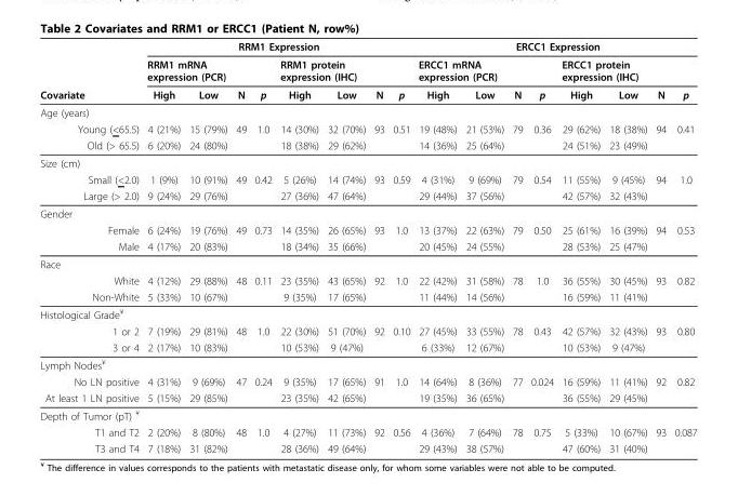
<table><thead><tr><td rowspan="3">Covariate</td><td colspan="8">RRM1 Expression</td><td colspan="8">ERCC1 Expression</td></tr><tr><td colspan="2">RRM1 mRNA expression (PCR)</td><td rowspan="2">N</td><td rowspan="2">p</td><td colspan="2">RRM1 protein expression (IHC)</td><td rowspan="2">N</td><td rowspan="2">p</td><td colspan="2">ERCC1 mRNA expression (PCR)</td><td rowspan="2">N</td><td rowspan="2">p</td><td colspan="2">ERCC1 protein expression (IHC)</td><td rowspan="2">N</td><td rowspan="2">p</td></tr><tr><td>High</td><td>Low</td><td>High</td><td>Low</td><td>High</td><td>Low</td><td>High</td><td>Low</td></tr></thead><tbody><tr><td colspan="17">Age (years)</td></tr><tr><td>Young (&lt;65.5)</td><td>4 (21%)</td><td>15 (79%)</td><td>49</td><td>1.0</td><td>14 (30%)</td><td>32 (70%)</td><td>93</td><td>0.51</td><td>19 (48%)</td><td>21 (53%)</td><td>79</td><td>0.36</td><td>29 (62%)</td><td>18 (38%)</td><td>94</td><td>0.41</td></tr><tr><td>Old (&gt; 65.5)</td><td>6 (20%)</td><td>24 (80%)</td><td></td><td></td><td>18 (38%)</td><td>29 (62%)</td><td></td><td></td><td>14 (36%)</td><td>25 (64%)</td><td></td><td></td><td>24 (51%)</td><td>23 (49%)</td><td></td><td></td></tr><tr><td colspan="17">Size (cm)</td></tr><tr><td>Small (&lt;2.0)</td><td>1 (9%)</td><td>10 (91%)</td><td>49</td><td>0.42</td><td>5 (26%)</td><td>14 (74%)</td><td>93</td><td>0.59</td><td>4 (31%)</td><td>9 (69%)</td><td>79</td><td>0.54</td><td>11 (55%)</td><td>9 (45%)</td><td>94</td><td>1.0</td></tr><tr><td>Large (&gt; 2.0)</td><td>9 (24%)</td><td>29 (76%)</td><td></td><td></td><td>27 (36%)</td><td>47 (64%)</td><td></td><td></td><td>29 (44%)</td><td>37 (56%)</td><td></td><td></td><td>42 (57%)</td><td>32 (43%)</td><td></td><td></td></tr><tr><td colspan="17">Gender</td></tr><tr><td>Female</td><td>6 (24%)</td><td>19 (76%)</td><td>49</td><td>0.73</td><td>14 (35%)</td><td>26 (65%)</td><td>93</td><td>1.0</td><td>13 (37%)</td><td>22 (63%)</td><td>79</td><td>0.50</td><td>25 (61%)</td><td>16 (39%)</td><td>94</td><td>0.53</td></tr><tr><td>Male</td><td>4 (17%)</td><td>20 (83%)</td><td></td><td></td><td>18 (34%)</td><td>35 (66%)</td><td></td><td></td><td>20 (45%)</td><td>24 (55%)</td><td></td><td></td><td>28 (53%)</td><td>25 (47%)</td><td></td><td></td></tr><tr><td colspan="17">Race</td></tr><tr><td>White</td><td>4 (12%)</td><td>29 (88%)</td><td>48</td><td>0.11</td><td>23 (35%)</td><td>43 (65%)</td><td>92</td><td>1.0</td><td>22 (42%)</td><td>31 (58%)</td><td>78</td><td>1.0</td><td>36 (55%)</td><td>30 (45%)</td><td>93</td><td>0.82</td></tr><tr><td>Non-White</td><td>5 (33%)</td><td>10 (67%)</td><td></td><td></td><td>9 (35%)</td><td>17 (65%)</td><td></td><td></td><td>11 (44%)</td><td>14 (56%)</td><td></td><td></td><td>16 (59%)</td><td>11 (41%)</td><td></td><td></td></tr><tr><td colspan="17">Histological Grade<sup>¥</sup></td></tr><tr><td>1 or 2</td><td>7 (19%)</td><td>29 (81%)</td><td>48</td><td>1.0</td><td>22 (30%)</td><td>51 (70%)</td><td>92</td><td>0.10</td><td>27 (45%)</td><td>33 (55%)</td><td>78</td><td>0.43</td><td>42 (57%)</td><td>32 (43%)</td><td>93</td><td>0.80</td></tr><tr><td>3 or 4</td><td>2 (17%)</td><td>10 (83%)</td><td></td><td></td><td>10 (53%)</td><td>9 (47%)</td><td></td><td></td><td>6 (33%)</td><td>12 (67%)</td><td></td><td></td><td>10 (53%)</td><td>9 (47%)</td><td></td><td></td></tr><tr><td colspan="17">Lymph Nodes<sup>¥</sup></td></tr><tr><td>No LN positive</td><td>4 (31%)</td><td>9 (69%)</td><td>47</td><td>0.24</td><td>9 (35%)</td><td>17 (65%)</td><td>91</td><td>1.0</td><td>14 (64%)</td><td>8 (36%)</td><td>77</td><td>0.024</td><td>16 (59%)</td><td>11 (41%)</td><td>92</td><td>0.82</td></tr><tr><td>At least 1 LN positive</td><td>5 (15%)</td><td>29 (85%)</td><td></td><td></td><td>23 (35%)</td><td>42 (65%)</td><td></td><td></td><td>19 (35%)</td><td>36 (65%)</td><td></td><td></td><td>36 (55%)</td><td>29 (45%)</td><td></td><td></td></tr><tr><td colspan="17">Depth of Tumor (pT) <sup>¥</sup></td></tr><tr><td>T1 and T2</td><td>2 (20%)</td><td>8 (80%)</td><td>48</td><td>1.0</td><td>4 (27%)</td><td>11 (73%)</td><td>92</td><td>0.56</td><td>4 (36%)</td><td>7 (64%)</td><td>78</td><td>0.75</td><td>5 (33%)</td><td>10 (67%)</td><td>93</td><td>0.087</td></tr><tr><td>T3 and T4</td><td>7 (18%)</td><td>31 (82%)</td><td></td><td></td><td>28 (36%)</td><td>49 (64%)</td><td></td><td></td><td>29 (43%)</td><td>38 (57%)</td><td></td><td></td><td>47 (60%)</td><td>31 (40%)</td><td></td><td></td></tr></tbody></table>